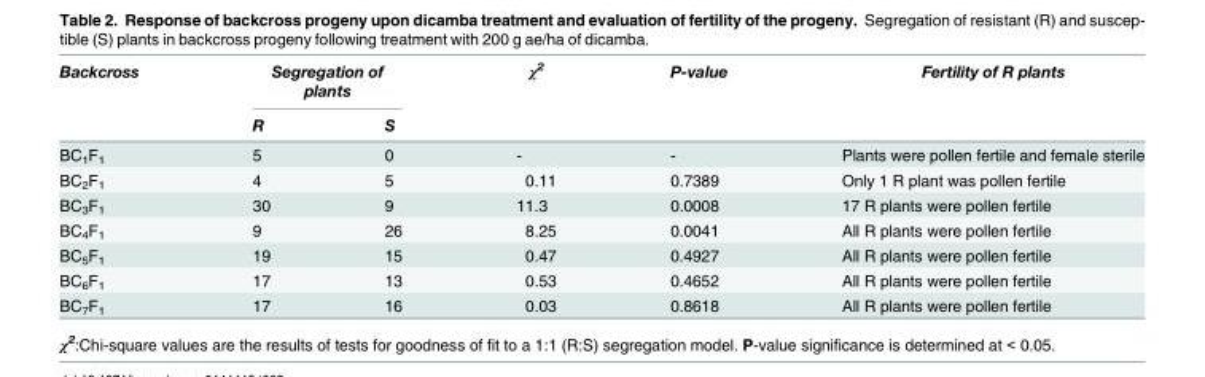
<table><thead><tr><td rowspan="2">Backcross</td><td colspan="2">Segregation of plants</td><td rowspan="2">χ<sup>2</sup></td><td rowspan="2">P-value</td><td rowspan="2">Fertility of R plants</td></tr><tr><td>R</td><td>S</td></tr></thead><tbody><tr><td>BC<sub>1</sub>F<sub>1</sub></td><td>5</td><td>0</td><td>-</td><td>-</td><td>Plants were pollen fertile and female sterile</td></tr><tr><td>BC<sub>2</sub>F<sub>1</sub></td><td>4</td><td>5</td><td>0.11</td><td>0.7389</td><td>Only 1 R plant was pollen fertile</td></tr><tr><td>BC<sub>3</sub>F<sub>1</sub></td><td>30</td><td>9</td><td>11.3</td><td>0.0008</td><td>17 R plants were pollen fertile</td></tr><tr><td>BC<sub>4</sub>F<sub>1</sub></td><td>9</td><td>26</td><td>8.25</td><td>0.0041</td><td>All R plants were pollen fertile</td></tr><tr><td>BC<sub>5</sub>F<sub>1</sub></td><td>19</td><td>15</td><td>0.47</td><td>0.4927</td><td>All R plants were pollen fertile</td></tr><tr><td>BC<sub>6</sub>F<sub>1</sub></td><td>17</td><td>13</td><td>0.53</td><td>0.4652</td><td>All R plants were pollen fertile</td></tr><tr><td>BC<sub>7</sub>F<sub>1</sub></td><td>17</td><td>16</td><td>0.03</td><td>0.8618</td><td>All R plants were pollen fertile</td></tr></tbody></table>